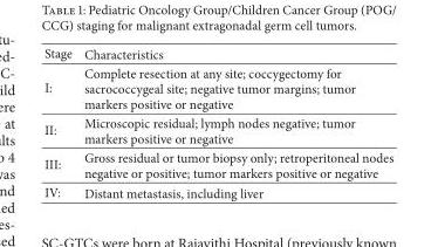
<table><thead><tr><td>Stage</td><td>Characteristics</td></tr></thead><tbody><tr><td>I:</td><td>Complete resection at any site; coccygectomy for sacrococcygeal site; negative tumor margins; tumor markers positive or negative</td></tr><tr><td>II:</td><td>Microscopic residual; lymph nodes negative; tumor markers positive or negative</td></tr><tr><td>III:</td><td>Gross residual or tumor biopsy only; retroperitoneal nodes negative or positive; tumor markers positive or negative</td></tr><tr><td>IV:</td><td>Distant metastasis, including liver</td></tr></tbody></table>